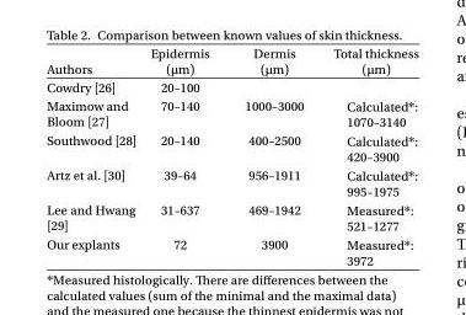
<table><thead><tr><td>Authors</td><td>Epidermis (µm)</td><td>Dermis (µm)</td><td>Total thickness (µm)</td></tr></thead><tbody><tr><td>Cowdry [26]</td><td>20–100</td><td></td><td></td></tr><tr><td>Maximow and Bloom [27]</td><td>70–140</td><td>1000–3000</td><td>Calculated*: 1070–3140</td></tr><tr><td>Southwood [28]</td><td>20–140</td><td>400–2500</td><td>Calculated*: 420–3900</td></tr><tr><td>Artz et al. [30]</td><td>39–64</td><td>956–1911</td><td>Calculated*: 995–1975</td></tr><tr><td>Lee and Hwang [29]</td><td>31–637</td><td>469–1942</td><td>Measured*: 521–1277</td></tr><tr><td>Our explants</td><td>72</td><td>3900</td><td>Measured*: 3972</td></tr></tbody></table>